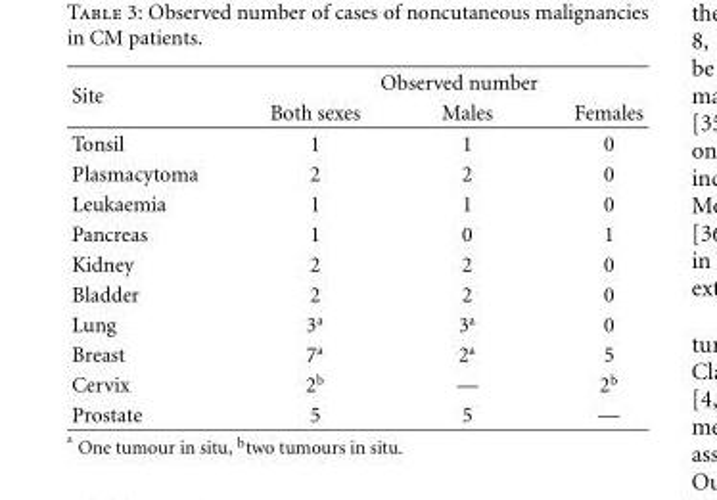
<table><thead><tr><td rowspan="2">Site</td><td colspan="3">Observed number</td></tr><tr><td>Both sexes</td><td>Males</td><td>Females</td></tr></thead><tbody><tr><td>Tonsil</td><td>1</td><td>1</td><td>0</td></tr><tr><td>Plasmacytoma</td><td>2</td><td>2</td><td>0</td></tr><tr><td>Leukaemia</td><td>1</td><td>1</td><td>0</td></tr><tr><td>Pancreas</td><td>1</td><td>0</td><td>1</td></tr><tr><td>Kidney</td><td>2</td><td>2</td><td>0</td></tr><tr><td>Bladder</td><td>2</td><td>2</td><td>0</td></tr><tr><td>Lung</td><td>3<sup>a</sup></td><td>3<sup>a</sup></td><td>0</td></tr><tr><td>Breast</td><td>7<sup>a</sup></td><td>2<sup>a</sup></td><td>5</td></tr><tr><td>Cervix</td><td>2<sup>b</sup></td><td>—</td><td>2<sup>b</sup></td></tr><tr><td>Prostate</td><td>5</td><td>5</td><td>—</td></tr></tbody></table>